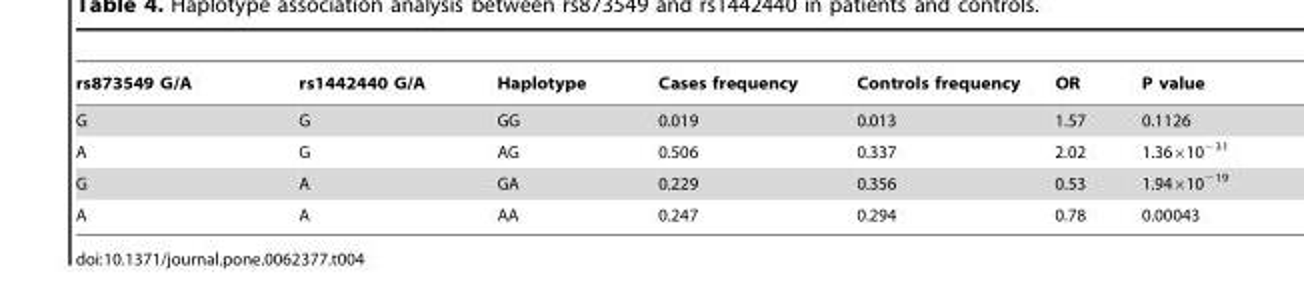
<table><thead><tr><td>rs873549 G/A</td><td>rs1442440 G/A</td><td>Haplotype</td><td>Cases frequency</td><td>Controls frequency</td><td>OR</td><td>P value</td></tr></thead><tbody><tr><td>G</td><td>G</td><td>GG</td><td>0.019</td><td>0.013</td><td>1.57</td><td>0.1126</td></tr><tr><td>A</td><td>G</td><td>AG</td><td>0.506</td><td>0.337</td><td>2.02</td><td>1.36×10<sup>−31</sup></td></tr><tr><td>G</td><td>A</td><td>GA</td><td>0.229</td><td>0.356</td><td>0.53</td><td>1.94×10<sup>−19</sup></td></tr><tr><td>A</td><td>A</td><td>AA</td><td>0.247</td><td>0.294</td><td>0.78</td><td>0.00043</td></tr></tbody></table>